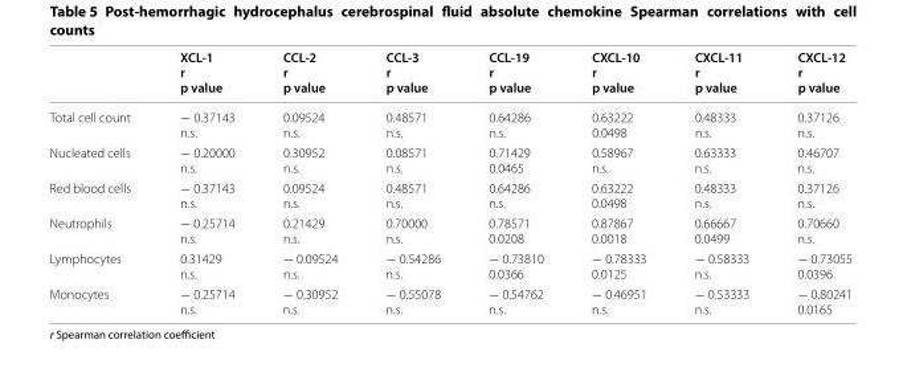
<table><thead><tr><td></td><td>XCL-1 r p value</td><td>CCL-2 r p value</td><td>CCL-3 r p value</td><td>CCL-19 r p value</td><td>CXCL-10 r p value</td><td>CXCL-11 r p value</td><td>CXCL-12 r p value</td></tr></thead><tbody><tr><td>Total cell count</td><td>− 0.37143 n.s.</td><td>0.09524 n.s.</td><td>0.48571 n.s.</td><td>0.64286 n.s.</td><td>0.63222 0.0498</td><td>0.48333 n.s.</td><td>0.37126 n.s.</td></tr><tr><td>Nucleated cells</td><td>− 0.20000 n.s.</td><td>0.30952 n.s.</td><td>0.08571 n.s.</td><td>0.71429 0.0465</td><td>0.58967 n.s.</td><td>0.63333 n.s.</td><td>0.46707 n.s.</td></tr><tr><td>Red blood cells</td><td>− 0.37143 n.s.</td><td>0.09524 n.s.</td><td>0.48571 n.s.</td><td>0.64286 n.s.</td><td>0.63222 0.0498</td><td>0.48333 n.s.</td><td>0.37126 n.s.</td></tr><tr><td>Neutrophils</td><td>− 0.25714 n.s.</td><td>0.21429 n.s.</td><td>0.70000 n.s.</td><td>0.78571 0.0208</td><td>0.87867 0.0018</td><td>0.66667 0.0499</td><td>0.70660 n.s.</td></tr><tr><td>Lymphocytes</td><td>0.31429 n.s.</td><td>− 0.09524 n.s.</td><td>− 0.54286 n.s.</td><td>− 0.73810 0.0366</td><td>− 0.78333 0.0125</td><td>− 0.58333 n.s.</td><td>− 0.73055 0.0396</td></tr><tr><td>Monocytes</td><td>− 0.25714 n.s.</td><td>− 0.30952 n.s.</td><td>− 0.55078 n.s.</td><td>− 0.54762 n.s.</td><td>− 0.46951 n.s.</td><td>− 0.53333 n.s.</td><td>− 0.80241 0.0165</td></tr></tbody></table>